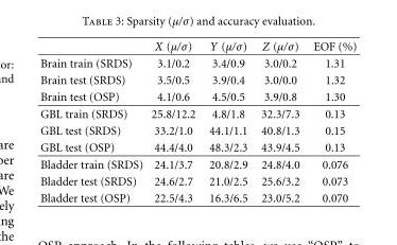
<table><thead><tr><td></td><td>X (μ/σ)</td><td>Y (μ/σ)</td><td>Z (μ/σ)</td><td>EOF (%)</td></tr></thead><tbody><tr><td>Brain train (SRDS)</td><td>3.1/0.2</td><td>3.4/0.9</td><td>3.0/0.2</td><td>1.31</td></tr><tr><td>Brain test (SRDS)</td><td>3.5/0.5</td><td>3.9/0.4</td><td>3.0/0.0</td><td>1.32</td></tr><tr><td>Brain test (OSP)</td><td>4.1/0.6</td><td>4.5/0.5</td><td>3.9/0.8</td><td>1.30</td></tr><tr><td>GBL train (SRDS)</td><td>25.8/12.2</td><td>4.8/1.8</td><td>32.3/7.3</td><td>0.13</td></tr><tr><td>GBL test (SRDS)</td><td>33.2/1.0</td><td>44.1/1.1</td><td>40.8/1.3</td><td>0.15</td></tr><tr><td>GBL test (OSP)</td><td>44.4/4.0</td><td>48.3/2.3</td><td>43.9/4.5</td><td>0.13</td></tr><tr><td>Bladder train (SRDS)</td><td>24.1/3.7</td><td>20.8/2.9</td><td>24.8/4.0</td><td>0.076</td></tr><tr><td>Bladder test (SRDS)</td><td>24.6/2.7</td><td>21.0/2.5</td><td>25.6/3.2</td><td>0.073</td></tr><tr><td>Bladder test (OSP)</td><td>22.5/4.3</td><td>16.3/6.5</td><td>23.0/5.2</td><td>0.070</td></tr></tbody></table>